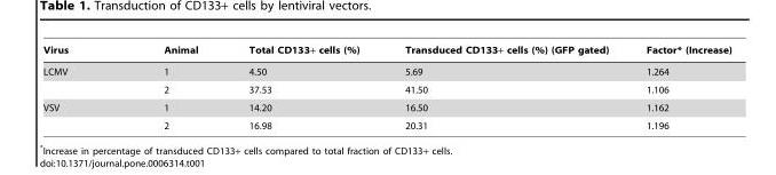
<table><thead><tr><td>Virus</td><td>Animal</td><td>Total CD133+ cells (%)</td><td>Transduced CD133+ cells (%) (GFP gated)</td><td>Factor* (Increase)</td></tr></thead><tbody><tr><td rowspan="2">LCMV</td><td>1</td><td>4.50</td><td>5.69</td><td>1.264</td></tr><tr><td>2</td><td>37.53</td><td>41.50</td><td>1.106</td></tr><tr><td rowspan="2">VSV</td><td>1</td><td>14.20</td><td>16.50</td><td>1.162</td></tr><tr><td>2</td><td>16.98</td><td>20.31</td><td>1.196</td></tr></tbody></table>